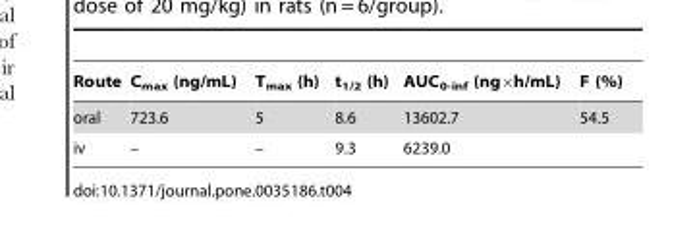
<table><thead><tr><td>Route</td><td>C<sub>max</sub> (ng/mL)</td><td>T<sub>max</sub> (h)</td><td>t<sub>1/2</sub> (h)</td><td>AUC<sub>0-inf</sub> (ng×h/mL)</td><td>F (%)</td></tr></thead><tbody><tr><td>oral</td><td>723.6</td><td>5</td><td>8.6</td><td>13602.7</td><td>54.5</td></tr><tr><td>iv</td><td>–</td><td>–</td><td>9.3</td><td>6239.0</td><td></td></tr></tbody></table>